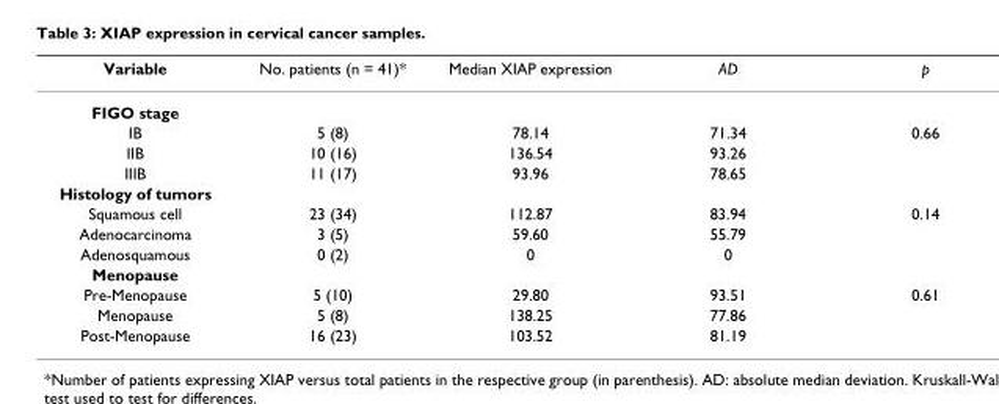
<table><thead><tr><td>Variable</td><td>No. patients (n = 41)*</td><td>Median XIAP expression</td><td>AD</td><td>p</td></tr></thead><tbody><tr><td colspan="5">FIGO stage</td></tr><tr><td>IB</td><td>5 (8)</td><td>78.14</td><td>71.34</td><td>0.66</td></tr><tr><td>IIB</td><td>10 (16)</td><td>136.54</td><td>93.26</td><td></td></tr><tr><td>IIIB</td><td>11 (17)</td><td>93.96</td><td>78.65</td><td></td></tr><tr><td colspan="5">Histology of tumors</td></tr><tr><td>Squamous cell</td><td>23 (34)</td><td>112.87</td><td>83.94</td><td>0.14</td></tr><tr><td>Adenocarcinoma</td><td>3 (5)</td><td>59.60</td><td>55.79</td><td></td></tr><tr><td>Adenosquamous</td><td>0 (2)</td><td>0</td><td>0</td><td></td></tr><tr><td colspan="5">Menopause</td></tr><tr><td>Pre-Menopause</td><td>5 (10)</td><td>29.80</td><td>93.51</td><td>0.61</td></tr><tr><td>Menopause</td><td>5 (8)</td><td>138.25</td><td>77.86</td><td></td></tr><tr><td>Post-Menopause</td><td>16 (23)</td><td>103.52</td><td>81.19</td><td></td></tr></tbody></table>